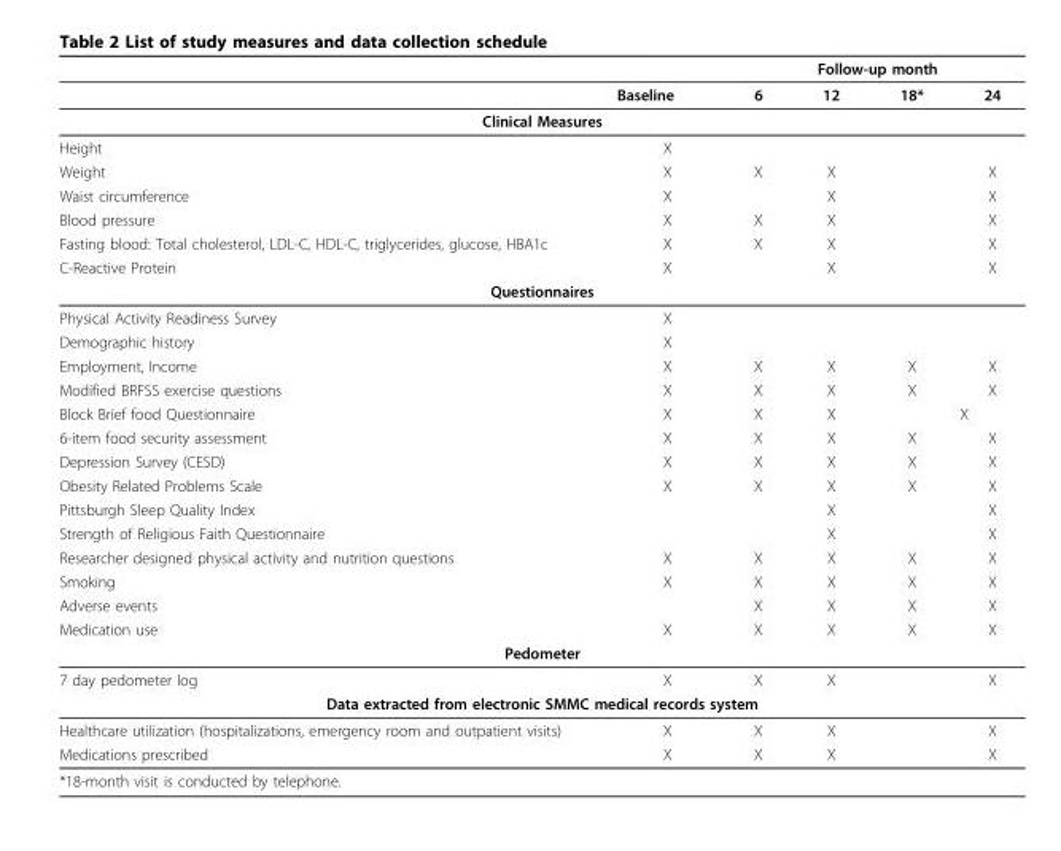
<table><thead><tr><td rowspan="2"></td><td rowspan="2">Baseline</td><td colspan="4">Follow-up month</td></tr><tr><td>6</td><td>12</td><td>18*</td><td>24</td></tr></thead><tbody><tr><td colspan="6">Clinical Measures</td></tr><tr><td>Height</td><td>X</td><td></td><td></td><td></td><td></td></tr><tr><td>Weight</td><td>X</td><td>X</td><td>X</td><td></td><td>X</td></tr><tr><td>Waist circumference</td><td>X</td><td></td><td>X</td><td></td><td>X</td></tr><tr><td>Blood pressure</td><td>X</td><td>X</td><td>X</td><td></td><td>X</td></tr><tr><td>Fasting blood: Total cholesterol, LDL-C, HDL-C, triglycerides, glucose, HBA1c</td><td>X</td><td>X</td><td>X</td><td></td><td>X</td></tr><tr><td>C-Reactive Protein</td><td>X</td><td></td><td>X</td><td></td><td>X</td></tr><tr><td colspan="6">Questionnaires</td></tr><tr><td>Physical Activity Readiness Survey</td><td>X</td><td></td><td></td><td></td><td></td></tr><tr><td>Demographic history</td><td>X</td><td></td><td></td><td></td><td></td></tr><tr><td>Employment, Income</td><td>X</td><td>X</td><td>X</td><td>X</td><td>X</td></tr><tr><td>Modified BRFSS exercise questions</td><td>X</td><td>X</td><td>X</td><td>X</td><td>X</td></tr><tr><td>Block Brief food Questionnaire</td><td>X</td><td>X</td><td>X</td><td></td><td>X</td></tr><tr><td>6-item food security assessment</td><td>X</td><td>X</td><td>X</td><td>X</td><td>X</td></tr><tr><td>Depression Survey (CESD)</td><td>X</td><td>X</td><td>X</td><td>X</td><td>X</td></tr><tr><td>Obesity Related Problems Scale</td><td>X</td><td>X</td><td>X</td><td>X</td><td>X</td></tr><tr><td>Pittsburgh Sleep Quality Index</td><td></td><td></td><td>X</td><td></td><td>X</td></tr><tr><td>Strength of Religious Faith Questionnaire</td><td></td><td></td><td>X</td><td></td><td>X</td></tr><tr><td>Researcher designed physical activity and nutrition questions</td><td>X</td><td>X</td><td>X</td><td>X</td><td>X</td></tr><tr><td>Smoking</td><td>X</td><td>X</td><td>X</td><td>X</td><td>X</td></tr><tr><td>Adverse events</td><td></td><td>X</td><td>X</td><td>X</td><td>X</td></tr><tr><td>Medication use</td><td>X</td><td>X</td><td>X</td><td>X</td><td>X</td></tr><tr><td colspan="6">Pedometer</td></tr><tr><td>7 day pedometer log</td><td>X</td><td>X</td><td>X</td><td></td><td>X</td></tr><tr><td colspan="6">Data extracted from electronic SMMC medical records system</td></tr><tr><td>Healthcare utilization (hospitalizations, emergency room and outpatient visits)</td><td>X</td><td>X</td><td>X</td><td></td><td>X</td></tr><tr><td>Medications prescribed</td><td>X</td><td>X</td><td>X</td><td></td><td>X</td></tr><tr><td>*18-month visit is conducted by telephone.</td><td></td><td></td><td></td><td></td><td></td></tr></tbody></table>